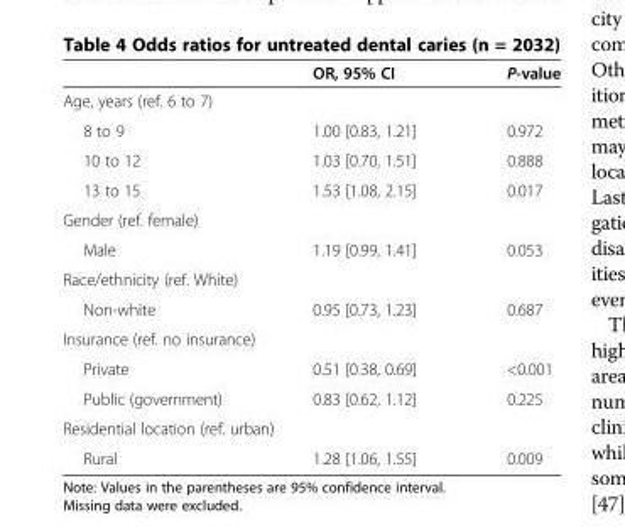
<table><thead><tr><td></td><td>OR, 95% CI</td><td>P-value</td></tr></thead><tbody><tr><td colspan="3">Age, years (ref. 6 to 7)</td></tr><tr><td>8 to 9</td><td>1.00 [0.83, 1.21]</td><td>0.972</td></tr><tr><td>10 to 12</td><td>1.03 [0.70, 1.51]</td><td>0.888</td></tr><tr><td>13 to 15</td><td>1.53 [1.08, 2.15]</td><td>0.017</td></tr><tr><td colspan="3">Gender (ref. female)</td></tr><tr><td>Male</td><td>1.19 [0.99, 1.41]</td><td>0.053</td></tr><tr><td colspan="3">Race/ethnicity (ref. White)</td></tr><tr><td>Non-white</td><td>0.95 [0.73, 1.23]</td><td>0.687</td></tr><tr><td colspan="3">Insurance (ref. no insurance)</td></tr><tr><td>Private</td><td>0.51 [0.38, 0.69]</td><td>&lt;0.001</td></tr><tr><td>Public (government)</td><td>0.83 [0.62, 1.12]</td><td>0.225</td></tr><tr><td colspan="3">Residential location (ref. urban)</td></tr><tr><td>Rural</td><td>1.28 [1.06, 1.55]</td><td>0.009</td></tr></tbody></table>